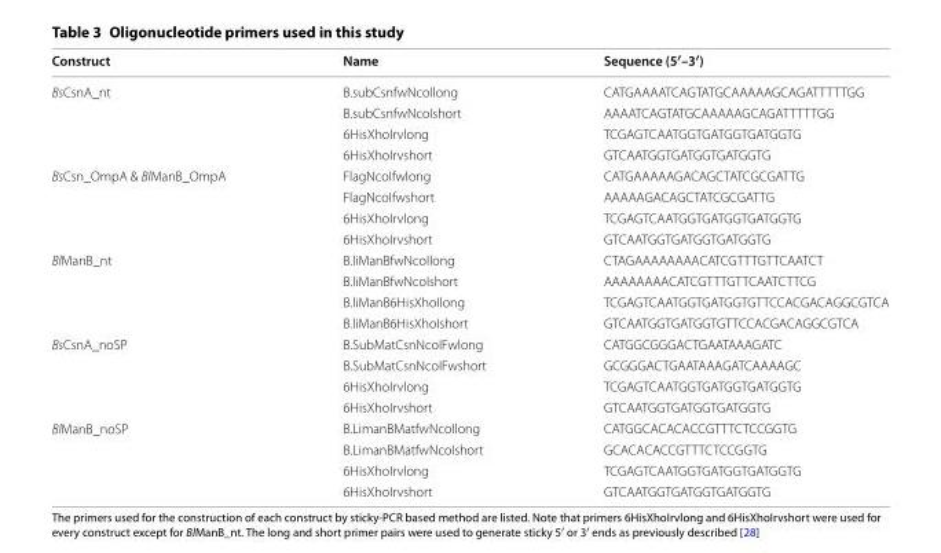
<table><thead><tr><td>Construct</td><td>Name</td><td>Sequence (5′–3′)</td></tr></thead><tbody><tr><td rowspan="4">BsCsnA_nt</td><td>B.subCsnfwNcoIlong</td><td>CATGAAAATCAGTATGCAAAAAGCAGATTTTTGG</td></tr><tr><td>B.subCsnfwNcoIshort</td><td>AAAATCAGTATGCAAAAAGCAGATTTTTGG</td></tr><tr><td>6HisXhoIrvlong</td><td>TCGAGTCAATGGTGATGGTGATGGTG</td></tr><tr><td>6HisXhoIrvshort</td><td>GTCAATGGTGATGGTGATGGTG</td></tr><tr><td rowspan="4">BsCsn_OmpA &amp; BlManB_OmpA</td><td>FlagNcoIfwlong</td><td>CATGAAAAAGACAGCTATCGCGATTG</td></tr><tr><td>FlagNcoIfwshort</td><td>AAAAAGACAGCTATCGCGATTG</td></tr><tr><td>6HisXhoIrvlong</td><td>TCGAGTCAATGGTGATGGTGATGGTG</td></tr><tr><td>6HisXhoIrvshort</td><td>GTCAATGGTGATGGTGATGGTG</td></tr><tr><td rowspan="4">BlManB_nt</td><td>B.liManBfwNcoIlong</td><td>CTAGAAAAAAAACATCGTTTGTTCAATCT</td></tr><tr><td>B.liManBfwNcoIshort</td><td>AAAAAAAACATCGTTTGTTCAATCTTCG</td></tr><tr><td>B.liManB6HisXhoIlong</td><td>TCGAGTCAATGGTGATGGTGTTCCACGACAGGCGTCA</td></tr><tr><td>B.liManB6HisXhoIshort</td><td>GTCAATGGTGATGGTGTTCCACGACAGGCGTCA</td></tr><tr><td rowspan="4">BsCsnA_noSP</td><td>B.SubMatCsnNcoIFwlong</td><td>CATGGCGGGACTGAATAAAGATC</td></tr><tr><td>B.SubMatCsnNcoIFwshort</td><td>GCGGGACTGAATAAAGATCAAAAGC</td></tr><tr><td>6HisXhoIrvlong</td><td>TCGAGTCAATGGTGATGGTGATGGTG</td></tr><tr><td>6HisXhoIrvshort</td><td>GTCAATGGTGATGGTGATGGTG</td></tr><tr><td rowspan="4">BlManB_noSP</td><td>B.LimanBMatfwNcoIlong</td><td>CATGGCACACACCGTTTCTCCGGTG</td></tr><tr><td>B.LimanBMatfwNcoIshort</td><td>GCACACACCGTTTCTCCGGTG</td></tr><tr><td>6HisXhoIrvlong</td><td>TCGAGTCAATGGTGATGGTGATGGTG</td></tr><tr><td>6HisXhoIrvshort</td><td>GTCAATGGTGATGGTGATGGTG</td></tr></tbody></table>